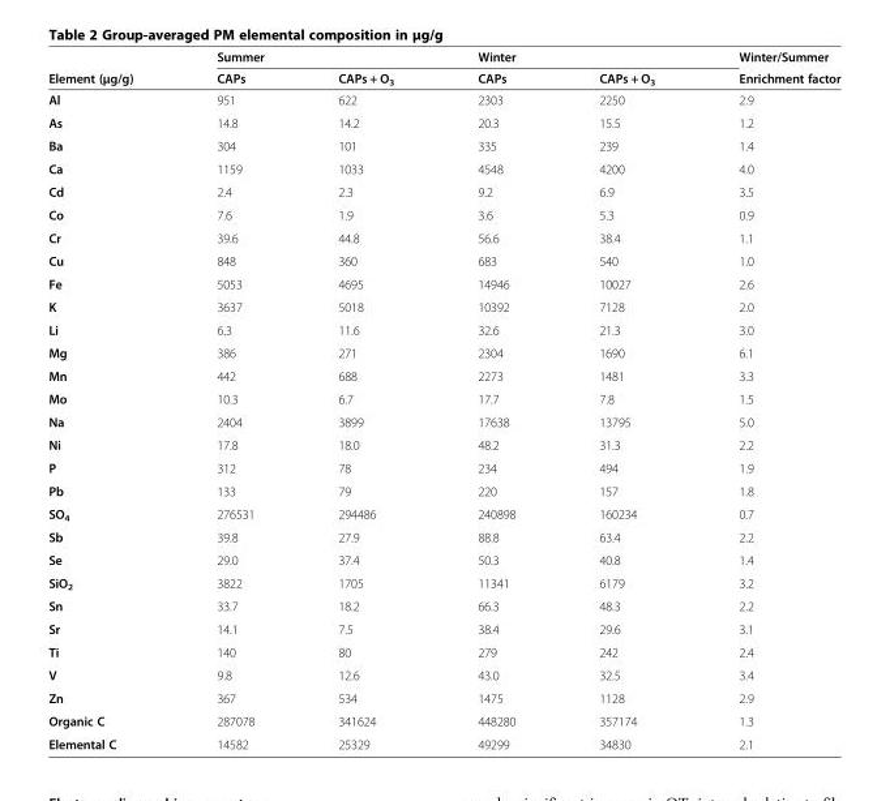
<table><thead><tr><td rowspan="2">Element (μg/g)</td><td colspan="2">Summer</td><td colspan="2">Winter</td><td rowspan="2">Winter/Summer Enrichment factor</td></tr><tr><td>CAPs</td><td>CAPs + O<sub>3</sub></td><td>CAPs</td><td>CAPs + O<sub>3</sub></td></tr></thead><tbody><tr><td>Al</td><td>951</td><td>622</td><td>2303</td><td>2250</td><td>2.9</td></tr><tr><td>As</td><td>14.8</td><td>14.2</td><td>20.3</td><td>15.5</td><td>1.2</td></tr><tr><td>Ba</td><td>304</td><td>101</td><td>335</td><td>239</td><td>1.4</td></tr><tr><td>Ca</td><td>1159</td><td>1033</td><td>4548</td><td>4200</td><td>4.0</td></tr><tr><td>Cd</td><td>2.4</td><td>2.3</td><td>9.2</td><td>6.9</td><td>3.5</td></tr><tr><td>Co</td><td>7.6</td><td>1.9</td><td>3.6</td><td>5.3</td><td>0.9</td></tr><tr><td>Cr</td><td>39.6</td><td>44.8</td><td>56.6</td><td>38.4</td><td>1.1</td></tr><tr><td>Cu</td><td>848</td><td>360</td><td>683</td><td>540</td><td>1.0</td></tr><tr><td>Fe</td><td>5053</td><td>4695</td><td>14946</td><td>10027</td><td>2.6</td></tr><tr><td>K</td><td>3637</td><td>5018</td><td>10392</td><td>7128</td><td>2.0</td></tr><tr><td>Li</td><td>6.3</td><td>11.6</td><td>32.6</td><td>21.3</td><td>3.0</td></tr><tr><td>Mg</td><td>386</td><td>271</td><td>2304</td><td>1690</td><td>6.1</td></tr><tr><td>Mn</td><td>442</td><td>688</td><td>2273</td><td>1481</td><td>3.3</td></tr><tr><td>Mo</td><td>10.3</td><td>6.7</td><td>17.7</td><td>7.8</td><td>1.5</td></tr><tr><td>Na</td><td>2404</td><td>3899</td><td>17638</td><td>13795</td><td>5.0</td></tr><tr><td>Ni</td><td>17.8</td><td>18.0</td><td>48.2</td><td>31.3</td><td>2.2</td></tr><tr><td>P</td><td>312</td><td>78</td><td>234</td><td>494</td><td>1.9</td></tr><tr><td>Pb</td><td>133</td><td>79</td><td>220</td><td>157</td><td>1.8</td></tr><tr><td>SO<sub>4</sub></td><td>276531</td><td>294486</td><td>240898</td><td>160234</td><td>0.7</td></tr><tr><td>Sb</td><td>39.8</td><td>27.9</td><td>88.8</td><td>63.4</td><td>2.2</td></tr><tr><td>Se</td><td>29.0</td><td>37.4</td><td>50.3</td><td>40.8</td><td>1.4</td></tr><tr><td>SiO<sub>2</sub></td><td>3822</td><td>1705</td><td>11341</td><td>6179</td><td>3.2</td></tr><tr><td>Sn</td><td>33.7</td><td>18.2</td><td>66.3</td><td>48.3</td><td>2.2</td></tr><tr><td>Sr</td><td>14.1</td><td>7.5</td><td>38.4</td><td>29.6</td><td>3.1</td></tr><tr><td>Ti</td><td>140</td><td>80</td><td>279</td><td>242</td><td>2.4</td></tr><tr><td>V</td><td>9.8</td><td>12.6</td><td>43.0</td><td>32.5</td><td>3.4</td></tr><tr><td>Zn</td><td>367</td><td>534</td><td>1475</td><td>1128</td><td>2.9</td></tr><tr><td>Organic C</td><td>287078</td><td>341624</td><td>448280</td><td>357174</td><td>1.3</td></tr><tr><td>Elemental C</td><td>14582</td><td>25329</td><td>49299</td><td>34830</td><td>2.1</td></tr></tbody></table>